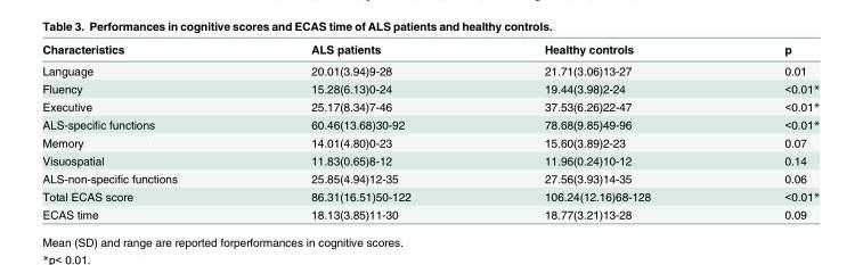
<table><thead><tr><td>Characteristics</td><td>ALS patients</td><td>Healthy controls</td><td>p</td></tr></thead><tbody><tr><td>Language</td><td>20.01(3.94)9-28</td><td>21.71(3.06)13-27</td><td>0.01</td></tr><tr><td>Fluency</td><td>15.28(6.13)0-24</td><td>19.44(3.98)2-24</td><td>&lt;0.01*</td></tr><tr><td>Executive</td><td>25.17(8.34)7-46</td><td>37.53(6.26)22-47</td><td>&lt;0.01*</td></tr><tr><td>ALS-specific functions</td><td>60.46(13.68)30-92</td><td>78.68(9.85)49-96</td><td>&lt;0.01*</td></tr><tr><td>Memory</td><td>14.01(4.80)0-23</td><td>15.60(3.89)2-23</td><td>0.07</td></tr><tr><td>Visuospatial</td><td>11.83(0.65)8-12</td><td>11.96(0.24)10-12</td><td>0.14</td></tr><tr><td>ALS-non-specific functions</td><td>25.85(4.94)12-35</td><td>27.56(3.93)14-35</td><td>0.06</td></tr><tr><td>Total ECAS score</td><td>86.31(16.51)50-122</td><td>106.24(12.16)68-128</td><td>&lt;0.01*</td></tr><tr><td>ECAS time</td><td>18.13(3.85)11-30</td><td>18.77(3.21)13-28</td><td>0.09</td></tr></tbody></table>